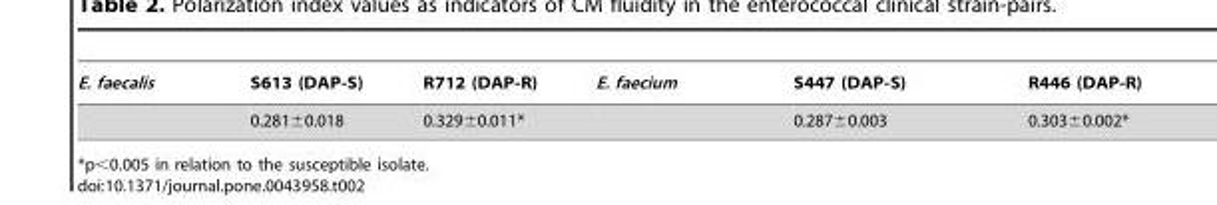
<table><thead><tr><td>E. faecalis</td><td>S613 (DAP-S)</td><td>R712 (DAP-R)</td><td>E. faecium</td><td>S447 (DAP-S)</td><td>R446 (DAP-R)</td></tr></thead><tbody><tr><td></td><td>0.281±0.018</td><td>0.329±0.011*</td><td></td><td>0.287±0.003</td><td>0.303±0.002*</td></tr></tbody></table>